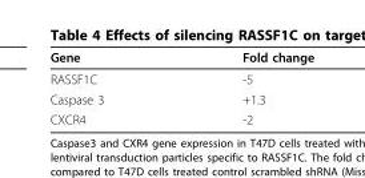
<table><thead><tr><td>Gene</td><td>Fold change</td></tr></thead><tbody><tr><td>RASSF1C</td><td>-5</td></tr><tr><td>Caspase 3</td><td>+1.3</td></tr><tr><td>CXCR4</td><td>-2</td></tr></tbody></table>